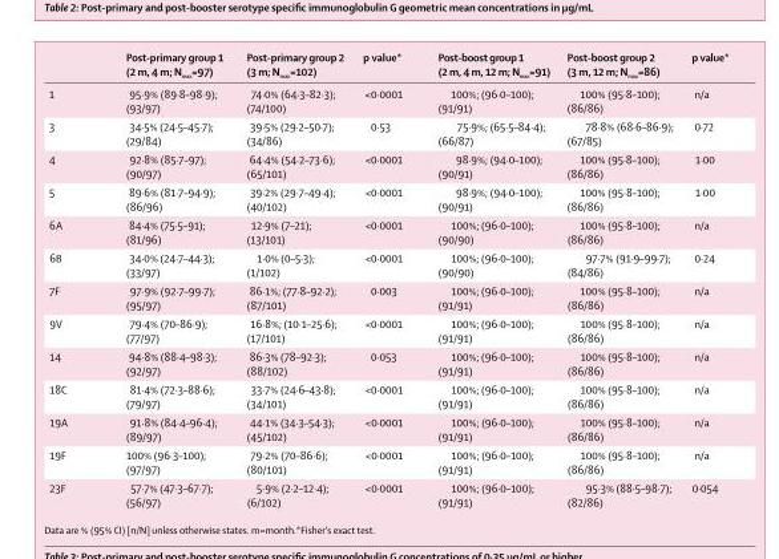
<table><thead><tr><td></td><td>Post-primary group 1 (2 m, 4 m; N<sub>max</sub>=97)</td><td>Post-primary group 2 (3 m; N<sub>max</sub>=102)</td><td>p value*</td><td>Post-boost group 1 (2 m, 4 m, 12 m; N<sub>max</sub>=91)</td><td>Post-boost group 2 (3 m, 12 m; N<sub>max</sub>=86)</td><td>p value*</td></tr></thead><tbody><tr><td>1</td><td>95·9% (89·8–98·9); (93/97)</td><td>74·0% (64·3–82·3); (74/100)</td><td>&lt;0·0001</td><td>100%; (96·0–100); (91/91)</td><td>100% (95·8–100); (86/86)</td><td>n/a</td></tr><tr><td>3</td><td>34·5% (24·5–45·7); (29/84)</td><td>39·5% (29·2–50·7); (34/86)</td><td>0·53</td><td>75·9%; (65·5–84·4); (66/87)</td><td>78·8% (68·6–86·9); (67/85)</td><td>0·72</td></tr><tr><td>4</td><td>92·8% (85·7–97); (90/97)</td><td>64·4% (54·2–73·6); (65/101)</td><td>&lt;0·0001</td><td>98·9%; (94·0–100); (90/91)</td><td>100% (95·8–100); (86/86)</td><td>1·00</td></tr><tr><td>5</td><td>89·6% (81·7–94·9); (86/96)</td><td>39·2% (29·7–49·4); (40/102)</td><td>&lt;0·0001</td><td>98·9%; (94·0–100); (90/91)</td><td>100% (95·8–100); (86/86)</td><td>1·00</td></tr><tr><td>6A</td><td>84·4% (75·5–91); (81/96)</td><td>12·9% (7–21); (13/101)</td><td>&lt;0·0001</td><td>100%; (96·0–100); (90/90)</td><td>100% (95·8–100); (86/86)</td><td>n/a</td></tr><tr><td>6B</td><td>34·0% (24·7–44·3); (33/97)</td><td>1·0% (0–5·3); (1/102)</td><td>&lt;0·0001</td><td>100%; (96·0–100); (90/90)</td><td>97·7% (91·9–99·7); (84/86)</td><td>0·24</td></tr><tr><td>7F</td><td>97·9% (92·7–99·7); (95/97)</td><td>86·1%; (77·8–92·2); (87/101)</td><td>0·003</td><td>100%; (96·0–100); (91/91)</td><td>100% (95·8–100); (86/86)</td><td>n/a</td></tr><tr><td>9V</td><td>79·4% (70–86·9); (77/97)</td><td>16·8%; (10·1–25·6); (17/101)</td><td>&lt;0·0001</td><td>100%; (96·0–100); (91/91)</td><td>100% (95·8–100); (86/86)</td><td>n/a</td></tr><tr><td>14</td><td>94·8% (88·4–98·3); (92/97)</td><td>86·3% (78–92·3); (88/102)</td><td>0·053</td><td>100%; (96·0–100); (91/91)</td><td>100% (95·8–100); (86/86)</td><td>n/a</td></tr><tr><td>18C</td><td>81·4% (72·3–88·6); (79/97)</td><td>33·7% (24·6–43·8); (34/101)</td><td>&lt;0·0001</td><td>100%; (96·0–100); (91/91)</td><td>100% (95·8–100); (86/86)</td><td>n/a</td></tr><tr><td>19A</td><td>91·8% (84·4–96·4); (89/97)</td><td>44·1% (34·3–54·3); (45/102)</td><td>&lt;0·0001</td><td>100%; (96·0–100); (91/91)</td><td>100% (95·8–100); (86/86)</td><td>n/a</td></tr><tr><td>19F</td><td>100% (96·3–100); (97/97)</td><td>79·2% (70–86·6); (80/101)</td><td>&lt;0·0001</td><td>100%; (96·0–100); (91/91)</td><td>100% (95·8–100); (86/86)</td><td>n/a</td></tr><tr><td>23F</td><td>57·7% (47·3–67·7); (56/97)</td><td>5·9% (2·2–12·4); (6/102)</td><td>&lt;0·0001</td><td>100%; (96·0–100); (91/91)</td><td>95·3% (88·5–98·7); (82/86)</td><td>0·054</td></tr></tbody></table>